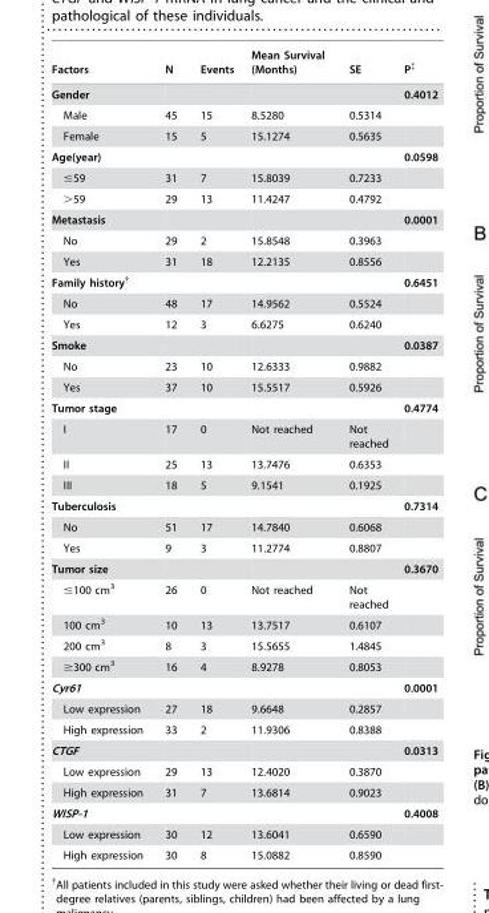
<table><thead><tr><td>Factors</td><td>N</td><td>Events</td><td>Mean Survival (Months)</td><td>SE</td><td>P‡</td></tr></thead><tbody><tr><td>Gender</td><td></td><td></td><td></td><td></td><td>0.4012</td></tr><tr><td>Male</td><td>45</td><td>15</td><td>8.5280</td><td>0.5314</td><td></td></tr><tr><td>Female</td><td>15</td><td>5</td><td>15.1274</td><td>0.5635</td><td></td></tr><tr><td>Age(year)</td><td></td><td></td><td></td><td></td><td>0.0598</td></tr><tr><td>≤59</td><td>31</td><td>7</td><td>15.8039</td><td>0.7233</td><td></td></tr><tr><td>&gt;59</td><td>29</td><td>13</td><td>11.4247</td><td>0.4792</td><td></td></tr><tr><td>Metastasis</td><td></td><td></td><td></td><td></td><td>0.0001</td></tr><tr><td>No</td><td>29</td><td>2</td><td>15.8548</td><td>0.3963</td><td></td></tr><tr><td>Yes</td><td>31</td><td>18</td><td>12.2135</td><td>0.8556</td><td></td></tr><tr><td>Family history†</td><td></td><td></td><td></td><td></td><td>0.6451</td></tr><tr><td>No</td><td>48</td><td>17</td><td>14.9562</td><td>0.5524</td><td></td></tr><tr><td>Yes</td><td>12</td><td>3</td><td>6.6275</td><td>0.6240</td><td></td></tr><tr><td>Smoke</td><td></td><td></td><td></td><td></td><td>0.0387</td></tr><tr><td>No</td><td>23</td><td>10</td><td>12.6333</td><td>0.9882</td><td></td></tr><tr><td>Yes</td><td>37</td><td>10</td><td>15.5517</td><td>0.5926</td><td></td></tr><tr><td>Tumor stage</td><td></td><td></td><td></td><td></td><td>0.4774</td></tr><tr><td>I</td><td>17</td><td>0</td><td>Not reached</td><td>Not reached</td><td></td></tr><tr><td>II</td><td>25</td><td>13</td><td>13.7476</td><td>0.6353</td><td></td></tr><tr><td>III</td><td>18</td><td>5</td><td>9.1541</td><td>0.1925</td><td></td></tr><tr><td>Tuberculosis</td><td></td><td></td><td></td><td></td><td>0.7314</td></tr><tr><td>No</td><td>51</td><td>17</td><td>14.7840</td><td>0.6068</td><td></td></tr><tr><td>Yes</td><td>9</td><td>3</td><td>11.2774</td><td>0.8807</td><td></td></tr><tr><td>Tumor size</td><td></td><td></td><td></td><td></td><td>0.3670</td></tr><tr><td>≤100 cm<sup>3</sup></td><td>26</td><td>0</td><td>Not reached</td><td>Not reached</td><td></td></tr><tr><td>100 cm<sup>3</sup></td><td>10</td><td>13</td><td>13.7517</td><td>0.6107</td><td></td></tr><tr><td>200 cm<sup>3</sup></td><td>8</td><td>3</td><td>15.5655</td><td>1.4845</td><td></td></tr><tr><td>≥300 cm<sup>3</sup></td><td>16</td><td>4</td><td>8.9278</td><td>0.8053</td><td></td></tr><tr><td>Cyr61</td><td></td><td></td><td></td><td></td><td>0.0001</td></tr><tr><td>Low expression</td><td>27</td><td>18</td><td>9.6648</td><td>0.2857</td><td></td></tr><tr><td>High expression</td><td>33</td><td>2</td><td>11.9306</td><td>0.8388</td><td></td></tr><tr><td>CTGF</td><td></td><td></td><td></td><td></td><td>0.0313</td></tr><tr><td>Low expression</td><td>29</td><td>13</td><td>12.4020</td><td>0.3870</td><td></td></tr><tr><td>High expression</td><td>31</td><td>7</td><td>13.6814</td><td>0.9023</td><td></td></tr><tr><td>WISP-1</td><td></td><td></td><td></td><td></td><td>0.4008</td></tr><tr><td>Low expression</td><td>30</td><td>12</td><td>13.6041</td><td>0.6590</td><td></td></tr><tr><td>High expression</td><td>30</td><td>8</td><td>15.0882</td><td>0.8590</td><td></td></tr></tbody></table>